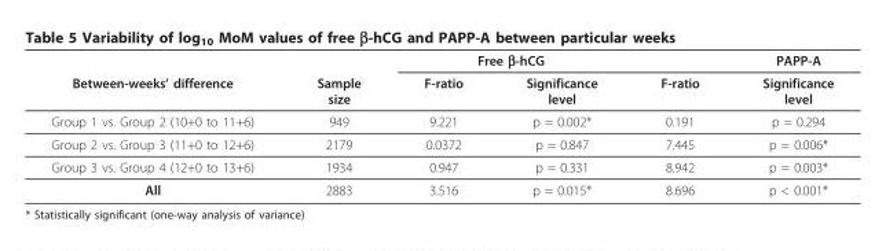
<table><thead><tr><td rowspan="2">Between-weeks’ difference</td><td rowspan="2">Sample size</td><td colspan="2">Free β-hCG</td><td rowspan="2">F-ratio</td><td rowspan="2">PAPP-A Significance level</td></tr><tr><td>F-ratio</td><td>Significance level</td></tr></thead><tbody><tr><td>Group 1 vs. Group 2 (10+0 to 11+6)</td><td>949</td><td>9.221</td><td>p = 0.002*</td><td>0.191</td><td>p = 0.294</td></tr><tr><td>Group 2 vs. Group 3 (11+0 to 12+6)</td><td>2179</td><td>0.0372</td><td>p = 0.847</td><td>7.445</td><td>p = 0.006*</td></tr><tr><td>Group 3 vs. Group 4 (12+0 to 13+6)</td><td>1934</td><td>0.947</td><td>p = 0.331</td><td>8.942</td><td>p = 0.003*</td></tr><tr><td>All</td><td>2883</td><td>3.516</td><td>p = 0.015*</td><td>8.696</td><td>p &lt; 0.001*</td></tr></tbody></table>